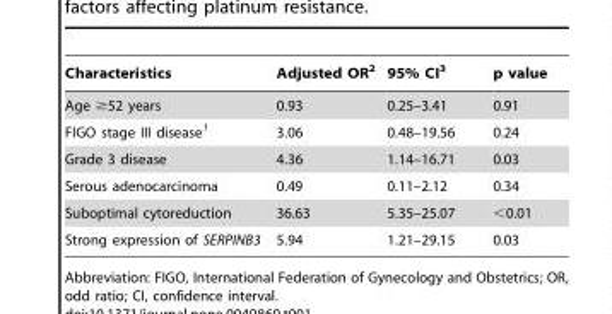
<table><thead><tr><td>Characteristics</td><td>Adjusted OR<sup>2</sup></td><td>95% CI<sup>3</sup></td><td>p value</td></tr></thead><tbody><tr><td>Age ≥52 years</td><td>0.93</td><td>0.25–3.41</td><td>0.91</td></tr><tr><td>FIGO stage III disease<sup>1</sup></td><td>3.06</td><td>0.48–19.56</td><td>0.24</td></tr><tr><td>Grade 3 disease</td><td>4.36</td><td>1.14–16.71</td><td>0.03</td></tr><tr><td>Serous adenocarcinoma</td><td>0.49</td><td>0.11–2.12</td><td>0.34</td></tr><tr><td>Suboptimal cytoreduction</td><td>36.63</td><td>5.35–25.07</td><td>&lt;0.01</td></tr><tr><td>Strong expression of SERPINB3</td><td>5.94</td><td>1.21–29.15</td><td>0.03</td></tr></tbody></table>